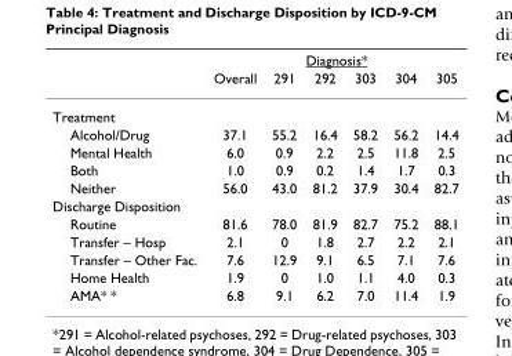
<table><thead><tr><td rowspan="2"></td><td colspan="6">Diagnosis*</td></tr><tr><td>Overall</td><td>291</td><td>292</td><td>303</td><td>304</td><td>305</td></tr></thead><tbody><tr><td colspan="7">Treatment</td></tr><tr><td>Alcohol/Drug</td><td>37.1</td><td>55.2</td><td>16.4</td><td>58.2</td><td>56.2</td><td>14.4</td></tr><tr><td>Mental Health</td><td>6.0</td><td>0.9</td><td>2.2</td><td>2.5</td><td>11.8</td><td>2.5</td></tr><tr><td>Both</td><td>1.0</td><td>0.9</td><td>0.2</td><td>1.4</td><td>1.7</td><td>0.3</td></tr><tr><td>Neither</td><td>56.0</td><td>43.0</td><td>81.2</td><td>37.9</td><td>30.4</td><td>82.7</td></tr><tr><td colspan="7">Discharge Disposition</td></tr><tr><td>Routine</td><td>81.6</td><td>78.0</td><td>81.9</td><td>82.7</td><td>75.2</td><td>88.1</td></tr><tr><td>Transfer – Hosp</td><td>2.1</td><td>0</td><td>1.8</td><td>2.7</td><td>2.2</td><td>2.1</td></tr><tr><td>Transfer – Other Fac.</td><td>7.6</td><td>12.9</td><td>9.1</td><td>6.5</td><td>7.1</td><td>7.6</td></tr><tr><td>Home Health</td><td>1.9</td><td>0</td><td>1.0</td><td>1.1</td><td>4.0</td><td>0.3</td></tr><tr><td>AMA* *</td><td>6.8</td><td>9.1</td><td>6.2</td><td>7.0</td><td>11.4</td><td>1.9</td></tr></tbody></table>